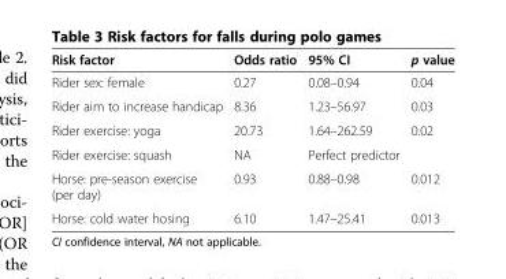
<table><thead><tr><td>Risk factor</td><td>Odds ratio</td><td>95% CI</td><td>p value</td></tr></thead><tbody><tr><td>Rider sex: female</td><td>0.27</td><td>0.08–0.94</td><td>0.04</td></tr><tr><td>Rider aim to increase handicap</td><td>8.36</td><td>1.23–56.97</td><td>0.03</td></tr><tr><td>Rider exercise: yoga</td><td>20.73</td><td>1.64–262.59</td><td>0.02</td></tr><tr><td>Rider exercise: squash</td><td>NA</td><td>Perfect predictor</td><td></td></tr><tr><td>Horse: pre-season exercise (per day)</td><td>0.93</td><td>0.88–0.98</td><td>0.012</td></tr><tr><td>Horse: cold water hosing</td><td>6.10</td><td>1.47–25.41</td><td>0.013</td></tr></tbody></table>